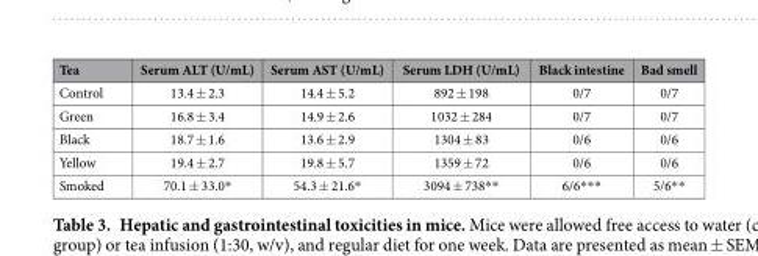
<table><thead><tr><td>Tea</td><td>Serum ALT (U/mL)</td><td>Serum AST (U/mL)</td><td>Serum LDH (U/mL)</td><td>Black intestine</td><td>Bad smell</td></tr></thead><tbody><tr><td>Control</td><td>13.4 ± 2.3</td><td>14.4 ± 5.2</td><td>892 ± 198</td><td>0/7</td><td>0/7</td></tr><tr><td>Green</td><td>16.8 ± 3.4</td><td>14.9 ± 2.6</td><td>1032 ± 284</td><td>0/7</td><td>0/7</td></tr><tr><td>Black</td><td>18.7 ± 1.6</td><td>13.6 ± 2.9</td><td>1304 ± 83</td><td>0/6</td><td>0/6</td></tr><tr><td>Yellow</td><td>19.4 ± 2.7</td><td>19.8 ± 5.7</td><td>1359 ± 72</td><td>0/6</td><td>0/6</td></tr><tr><td>Smoked</td><td>70.1 ± 33.0*</td><td>54.3 ± 21.6*</td><td>3094 ± 738* *</td><td>6/6* * *</td><td>5/6* *</td></tr></tbody></table>